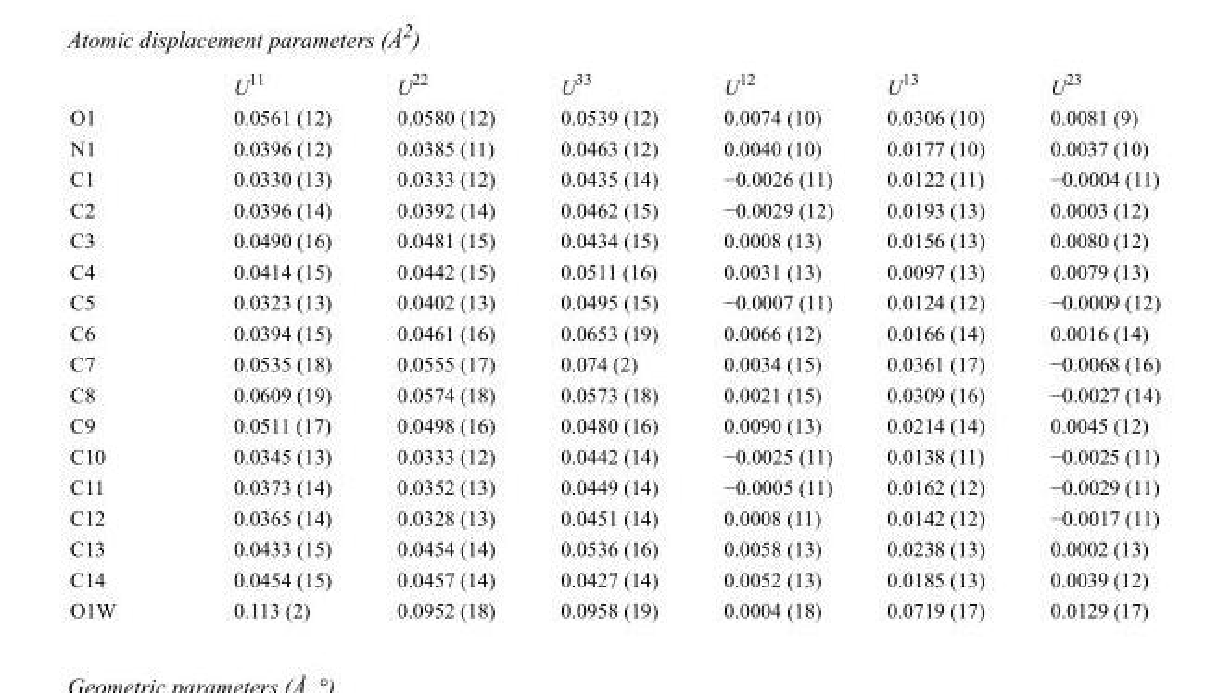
<table><thead><tr><td></td><td>U<sup>11</sup></td><td>U<sup>22</sup></td><td>U<sup>33</sup></td><td>U<sup>12</sup></td><td>U<sup>13</sup></td><td>U<sup>23</sup></td></tr></thead><tbody><tr><td>O1</td><td>0.0561 (12)</td><td>0.0580 (12)</td><td>0.0539 (12)</td><td>0.0074 (10)</td><td>0.0306 (10)</td><td>0.0081 (9)</td></tr><tr><td>N1</td><td>0.0396 (12)</td><td>0.0385 (11)</td><td>0.0463 (12)</td><td>0.0040 (10)</td><td>0.0177 (10)</td><td>0.0037 (10)</td></tr><tr><td>C1</td><td>0.0330 (13)</td><td>0.0333 (12)</td><td>0.0435 (14)</td><td>−0.0026 (11)</td><td>0.0122 (11)</td><td>−0.0004 (11)</td></tr><tr><td>C2</td><td>0.0396 (14)</td><td>0.0392 (14)</td><td>0.0462 (15)</td><td>−0.0029 (12)</td><td>0.0193 (13)</td><td>0.0003 (12)</td></tr><tr><td>C3</td><td>0.0490 (16)</td><td>0.0481 (15)</td><td>0.0434 (15)</td><td>0.0008 (13)</td><td>0.0156 (13)</td><td>0.0080 (12)</td></tr><tr><td>C4</td><td>0.0414 (15)</td><td>0.0442 (15)</td><td>0.0511 (16)</td><td>0.0031 (13)</td><td>0.0097 (13)</td><td>0.0079 (13)</td></tr><tr><td>C5</td><td>0.0323 (13)</td><td>0.0402 (13)</td><td>0.0495 (15)</td><td>−0.0007 (11)</td><td>0.0124 (12)</td><td>−0.0009 (12)</td></tr><tr><td>C6</td><td>0.0394 (15)</td><td>0.0461 (16)</td><td>0.0653 (19)</td><td>0.0066 (12)</td><td>0.0166 (14)</td><td>0.0016 (14)</td></tr><tr><td>C7</td><td>0.0535 (18)</td><td>0.0555 (17)</td><td>0.074 (2)</td><td>0.0034 (15)</td><td>0.0361 (17)</td><td>−0.0068 (16)</td></tr><tr><td>C8</td><td>0.0609 (19)</td><td>0.0574 (18)</td><td>0.0573 (18)</td><td>0.0021 (15)</td><td>0.0309 (16)</td><td>−0.0027 (14)</td></tr><tr><td>C9</td><td>0.0511 (17)</td><td>0.0498 (16)</td><td>0.0480 (16)</td><td>0.0090 (13)</td><td>0.0214 (14)</td><td>0.0045 (12)</td></tr><tr><td>C10</td><td>0.0345 (13)</td><td>0.0333 (12)</td><td>0.0442 (14)</td><td>−0.0025 (11)</td><td>0.0138 (11)</td><td>−0.0025 (11)</td></tr><tr><td>C11</td><td>0.0373 (14)</td><td>0.0352 (13)</td><td>0.0449 (14)</td><td>−0.0005 (11)</td><td>0.0162 (12)</td><td>−0.0029 (11)</td></tr><tr><td>C12</td><td>0.0365 (14)</td><td>0.0328 (13)</td><td>0.0451 (14)</td><td>0.0008 (11)</td><td>0.0142 (12)</td><td>−0.0017 (11)</td></tr><tr><td>C13</td><td>0.0433 (15)</td><td>0.0454 (14)</td><td>0.0536 (16)</td><td>0.0058 (13)</td><td>0.0238 (13)</td><td>0.0002 (13)</td></tr><tr><td>C14</td><td>0.0454 (15)</td><td>0.0457 (14)</td><td>0.0427 (14)</td><td>0.0052 (13)</td><td>0.0185 (13)</td><td>0.0039 (12)</td></tr><tr><td>O1W</td><td>0.113 (2)</td><td>0.0952 (18)</td><td>0.0958 (19)</td><td>0.0004 (18)</td><td>0.0719 (17)</td><td>0.0129 (17)</td></tr></tbody></table>